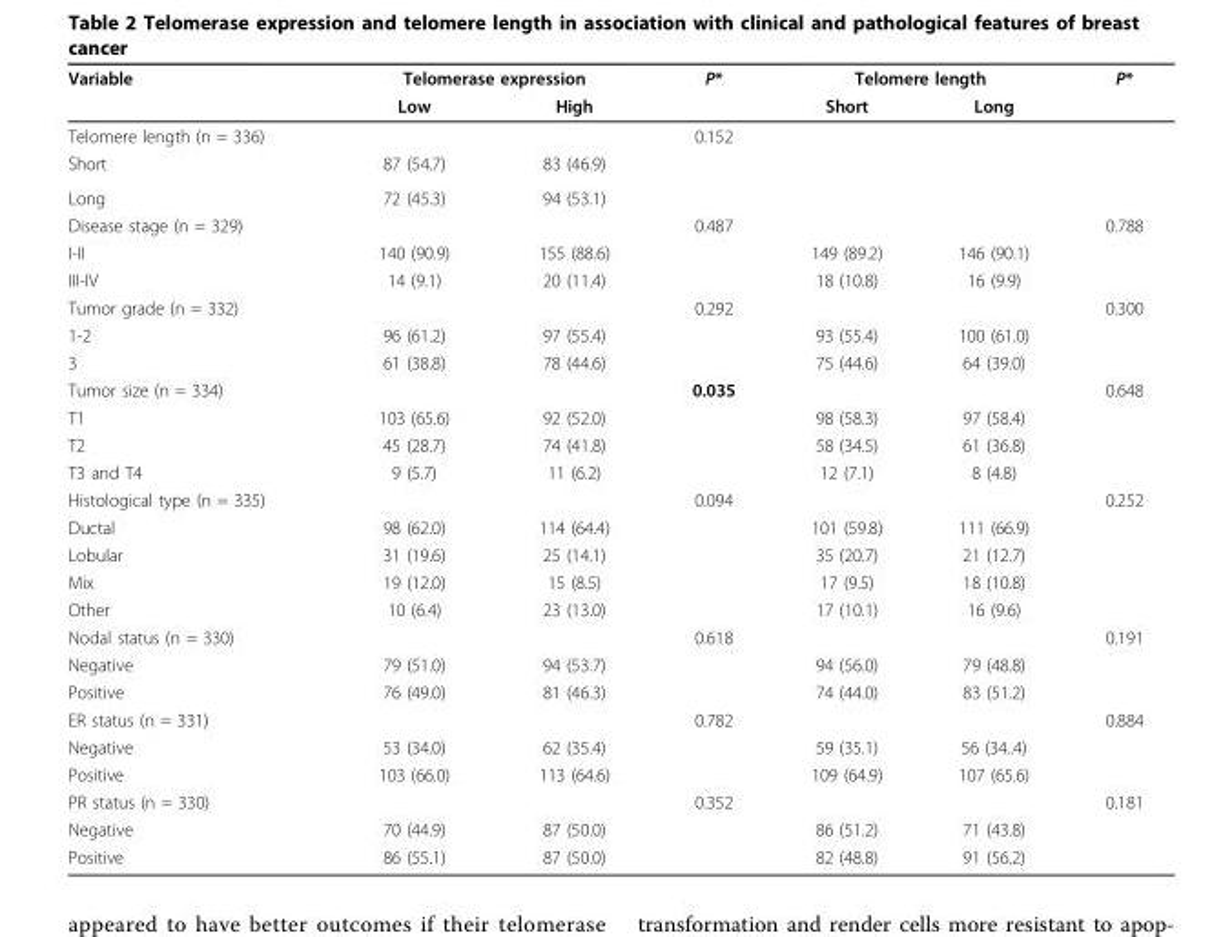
<table><thead><tr><td rowspan="2">Variable</td><td colspan="2">Telomerase expression</td><td rowspan="2">P*</td><td colspan="2">Telomere length</td><td rowspan="2">P*</td></tr><tr><td>Low</td><td>High</td><td>Short</td><td>Long</td></tr></thead><tbody><tr><td>Telomere length (n = 336)</td><td></td><td></td><td>0.152</td><td></td><td></td><td></td></tr><tr><td>Short</td><td>87 (54.7)</td><td>83 (46.9)</td><td></td><td></td><td></td><td></td></tr><tr><td>Long</td><td>72 (45.3)</td><td>94 (53.1)</td><td></td><td></td><td></td><td></td></tr><tr><td>Disease stage (n = 329)</td><td></td><td></td><td>0.487</td><td></td><td></td><td>0.788</td></tr><tr><td>I-II</td><td>140 (90.9)</td><td>155 (88.6)</td><td></td><td>149 (89.2)</td><td>146 (90.1)</td><td></td></tr><tr><td>III-IV</td><td>14 (9.1)</td><td>20 (11.4)</td><td></td><td>18 (10.8)</td><td>16 (9.9)</td><td></td></tr><tr><td>Tumor grade (n = 332)</td><td></td><td></td><td>0.292</td><td></td><td></td><td>0.300</td></tr><tr><td>1-2</td><td>96 (61.2)</td><td>97 (55.4)</td><td></td><td>93 (55.4)</td><td>100 (61.0)</td><td></td></tr><tr><td>3</td><td>61 (38.8)</td><td>78 (44.6)</td><td></td><td>75 (44.6)</td><td>64 (39.0)</td><td></td></tr><tr><td>Tumor size (n = 334)</td><td></td><td></td><td>0.035</td><td></td><td></td><td>0.648</td></tr><tr><td>T1</td><td>103 (65.6)</td><td>92 (52.0)</td><td></td><td>98 (58.3)</td><td>97 (58.4)</td><td></td></tr><tr><td>T2</td><td>45 (28.7)</td><td>74 (41.8)</td><td></td><td>58 (34.5)</td><td>61 (36.8)</td><td></td></tr><tr><td>T3 and T4</td><td>9 (5.7)</td><td>11 (6.2)</td><td></td><td>12 (7.1)</td><td>8 (4.8)</td><td></td></tr><tr><td>Histological type (n = 335)</td><td></td><td></td><td>0.094</td><td></td><td></td><td>0.252</td></tr><tr><td>Ductal</td><td>98 (62.0)</td><td>114 (64.4)</td><td></td><td>101 (59.8)</td><td>111 (66.9)</td><td></td></tr><tr><td>Lobular</td><td>31 (19.6)</td><td>25 (14.1)</td><td></td><td>35 (20.7)</td><td>21 (12.7)</td><td></td></tr><tr><td>Mix</td><td>19 (12.0)</td><td>15 (8.5)</td><td></td><td>17 (9.5)</td><td>18 (10.8)</td><td></td></tr><tr><td>Other</td><td>10 (6.4)</td><td>23 (13.0)</td><td></td><td>17 (10.1)</td><td>16 (9.6)</td><td></td></tr><tr><td>Nodal status (n = 330)</td><td></td><td></td><td>0.618</td><td></td><td></td><td>0.191</td></tr><tr><td>Negative</td><td>79 (51.0)</td><td>94 (53.7)</td><td></td><td>94 (56.0)</td><td>79 (48.8)</td><td></td></tr><tr><td>Positive</td><td>76 (49.0)</td><td>81 (46.3)</td><td></td><td>74 (44.0)</td><td>83 (51.2)</td><td></td></tr><tr><td>ER status (n = 331)</td><td></td><td></td><td>0.782</td><td></td><td></td><td>0.884</td></tr><tr><td>Negative</td><td>53 (34.0)</td><td>62 (35.4)</td><td></td><td>59 (35.1)</td><td>56 (34..4)</td><td></td></tr><tr><td>Positive</td><td>103 (66.0)</td><td>113 (64.6)</td><td></td><td>109 (64.9)</td><td>107 (65.6)</td><td></td></tr><tr><td>PR status (n = 330)</td><td></td><td></td><td>0.352</td><td></td><td></td><td>0.181</td></tr><tr><td>Negative</td><td>70 (44.9)</td><td>87 (50.0)</td><td></td><td>86 (51.2)</td><td>71 (43.8)</td><td></td></tr><tr><td>Positive</td><td>86 (55.1)</td><td>87 (50.0)</td><td></td><td>82 (48.8)</td><td>91 (56.2)</td><td></td></tr></tbody></table>